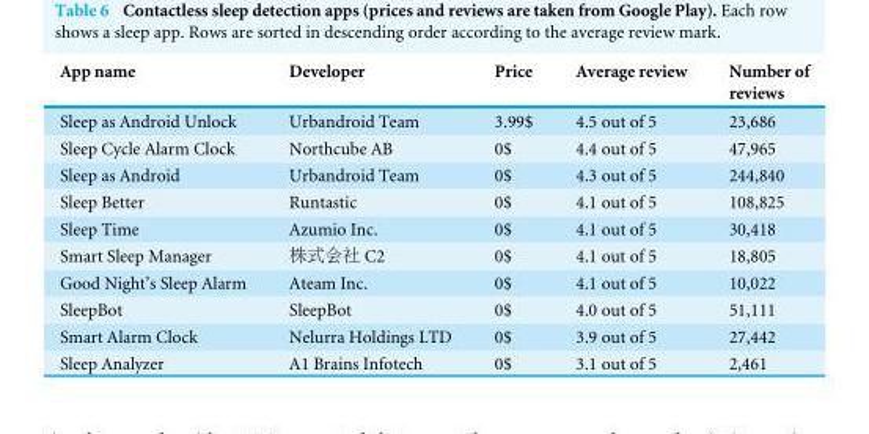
<table><thead><tr><td>App name</td><td>Developer</td><td>Price</td><td>Average review</td><td>Number of reviews</td></tr></thead><tbody><tr><td>Sleep as Android Unlock</td><td>Urbandroid Team</td><td>3.99$</td><td>4.5 out of 5</td><td>23,686</td></tr><tr><td>Sleep Cycle Alarm Clock</td><td>Northcube AB</td><td>0$</td><td>4.4 out of 5</td><td>47,965</td></tr><tr><td>Sleep as Android</td><td>Urbandroid Team</td><td>0$</td><td>4.3 out of 5</td><td>244,840</td></tr><tr><td>Sleep Better</td><td>Runtastic</td><td>0$</td><td>4.1 out of 5</td><td>108,825</td></tr><tr><td>Sleep Time</td><td>Azumio Inc.</td><td>0$</td><td>4.1 out of 5</td><td>30,418</td></tr><tr><td>Smart Sleep Manager</td><td>株式会社 C2</td><td>0$</td><td>4.1 out of 5</td><td>18,805</td></tr><tr><td>Good Night’s Sleep Alarm</td><td>Ateam Inc.</td><td>0$</td><td>4.1 out of 5</td><td>10,022</td></tr><tr><td>SleepBot</td><td>SleepBot</td><td>0$</td><td>4.0 out of 5</td><td>51,111</td></tr><tr><td>Smart Alarm Clock</td><td>Nelurra Holdings LTD</td><td>0$</td><td>3.9 out of 5</td><td>27,442</td></tr><tr><td>Sleep Analyzer</td><td>A1 Brains Infotech</td><td>0$</td><td>3.1 out of 5</td><td>2,461</td></tr></tbody></table>